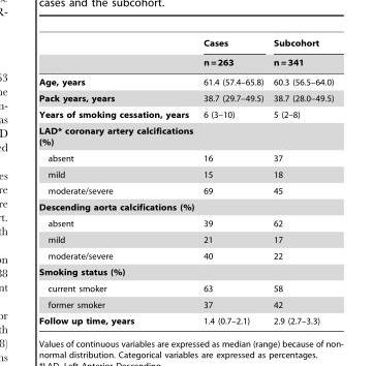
<table><thead><tr><td rowspan="2"></td><td rowspan="2">Cases n = 263</td><td rowspan="2">Subcohort n = 341</td></tr><tr></tr></thead><tbody><tr><td>Age, years</td><td>61.4 (57.4–65.8)</td><td>60.3 (56.5–64.0)</td></tr><tr><td>Pack years, years</td><td>38.7 (29.7–49.5)</td><td>38.7 (28.0–49.5)</td></tr><tr><td>Years of smoking cessation, years</td><td>6 (3–10)</td><td>5 (2–8)</td></tr><tr><td colspan="3">LAD* coronary artery calcifications (%)</td></tr><tr><td>absent</td><td>16</td><td>37</td></tr><tr><td>mild</td><td>15</td><td>18</td></tr><tr><td>moderate/severe</td><td>69</td><td>45</td></tr><tr><td colspan="3">Descending aorta calcifications (%)</td></tr><tr><td>absent</td><td>39</td><td>62</td></tr><tr><td>mild</td><td>21</td><td>17</td></tr><tr><td>moderate/severe</td><td>40</td><td>22</td></tr><tr><td colspan="3">Smoking status (%)</td></tr><tr><td>current smoker</td><td>63</td><td>58</td></tr><tr><td>former smoker</td><td>37</td><td>42</td></tr><tr><td>Follow up time, years</td><td>1.4 (0.7–2.1)</td><td>2.9 (2.7–3.3)</td></tr></tbody></table>